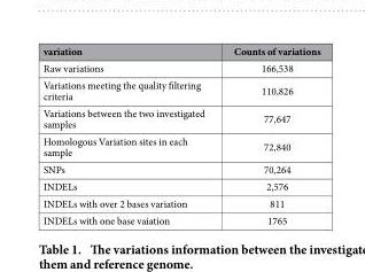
<table><thead><tr><td>variation</td><td>Counts of variations</td></tr></thead><tbody><tr><td>Raw variations</td><td>166,538</td></tr><tr><td>Variations meeting the quality filtering criteria</td><td>110,826</td></tr><tr><td>Variations between the two investigated samples</td><td>77,647</td></tr><tr><td>Homologous Variation sites in each sample</td><td>72,840</td></tr><tr><td>SNPs</td><td>70,264</td></tr><tr><td>INDELs</td><td>2,576</td></tr><tr><td>INDELs with over 2 bases variation</td><td>811</td></tr><tr><td>INDELs with one base vaiation</td><td>1765</td></tr></tbody></table>